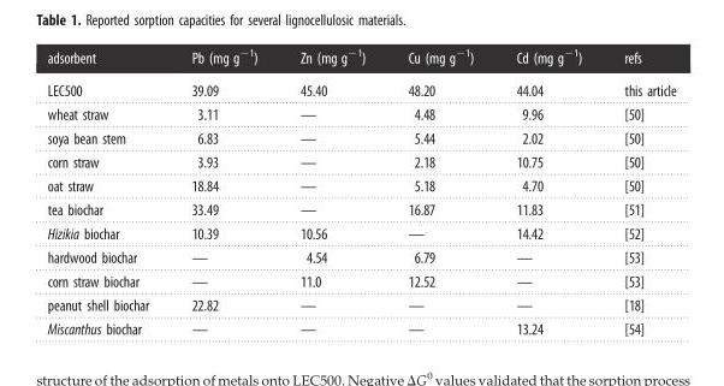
<table><thead><tr><td>adsorbent</td><td>Pb (mg g<sup>−1</sup>)</td><td>Zn (mg g<sup>−1</sup>)</td><td>Cu (mg g<sup>−1</sup>)</td><td>Cd (mg g<sup>−1</sup>)</td><td>refs</td></tr></thead><tbody><tr><td>LEC500</td><td>39.09</td><td>45.40</td><td>48.20</td><td>44.04</td><td>this article</td></tr><tr><td>wheat straw</td><td>3.11</td><td>—</td><td>4.48</td><td>9.96</td><td>[50]</td></tr><tr><td>soya bean stem</td><td>6.83</td><td>—</td><td>5.44</td><td>2.02</td><td>[50]</td></tr><tr><td>corn straw</td><td>3.93</td><td>—</td><td>2.18</td><td>10.75</td><td>[50]</td></tr><tr><td>oat straw</td><td>18.84</td><td>—</td><td>5.18</td><td>4.70</td><td>[50]</td></tr><tr><td>tea biochar</td><td>33.49</td><td>—</td><td>16.87</td><td>11.83</td><td>[51]</td></tr><tr><td>Hizikia biochar</td><td>10.39</td><td>10.56</td><td>—</td><td>14.42</td><td>[52]</td></tr><tr><td>hardwood biochar</td><td>—</td><td>4.54</td><td>6.79</td><td>—</td><td>[53]</td></tr><tr><td>corn straw biochar</td><td>—</td><td>11.0</td><td>12.52</td><td>—</td><td>[53]</td></tr><tr><td>peanut shell biochar</td><td>22.82</td><td>—</td><td>—</td><td>—</td><td>[18]</td></tr><tr><td>Miscanthus biochar</td><td>—</td><td>—</td><td>—</td><td>13.24</td><td>[54]</td></tr></tbody></table>